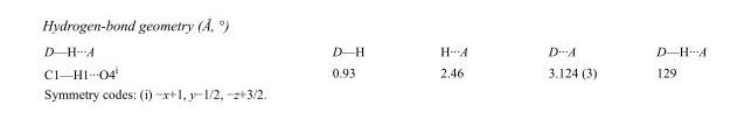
<table><tbody><tr><td>D—H···A</td><td>D—H</td><td>H···A</td><td>D···A</td><td>D—H···A</td></tr><tr><td>C1—H1···O4<sup>i</sup></td><td>0.93</td><td>2.46</td><td>3.124 (3)</td><td>129</td></tr></tbody></table>